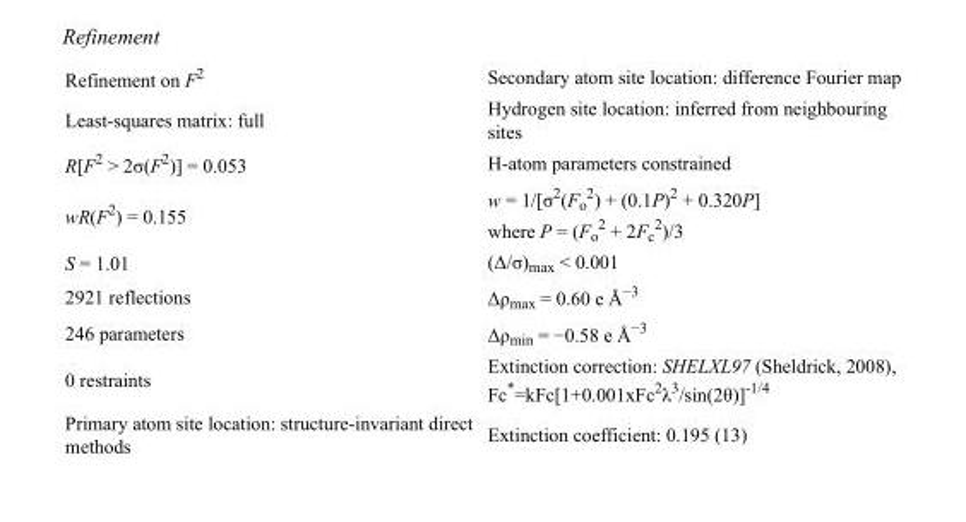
<table><tbody><tr><td>Refinement on F<sup>2</sup></td><td>Secondary atom site location: difference Fourier map</td></tr><tr><td>Least-squares matrix: full</td><td>Hydrogen site location: inferred from neighbouring sites</td></tr><tr><td>R[F<sup>2</sup> &gt; 2σ(F<sup>2</sup>)] = 0.053</td><td>H-atom parameters constrained</td></tr><tr><td>wR(F<sup>2</sup>) = 0.155</td><td>w = 1/[σ<sup>2</sup>(F<sub>o</sub> <sup>2</sup>) + (0.1P)<sup>2</sup> + 0.320P] where P = (F<sub>o</sub> <sup>2</sup> + 2F<sub>c</sub> <sup>2</sup>)/3</td></tr><tr><td>S = 1.01</td><td>(Δ/σ)<sub>max</sub> &lt; 0.001</td></tr><tr><td>2921 reflections</td><td>Δρ<sub>max</sub> = 0.60 e Å<sup>−3</sup></td></tr><tr><td>246 parameters</td><td>Δρ<sub>min</sub> = −0.58 e Å<sup>−3</sup></td></tr><tr><td>0 restraints</td><td>Extinction correction: SHELXL97 (Sheldrick, 2008), Fc*=kFc[1+0.001xFc<sup>2</sup>λ<sup>3</sup>/sin(2θ)]<sup>-1/4</sup></td></tr><tr><td>Primary atom site location: structure-invariant direct methods</td><td>Extinction coefficient: 0.195 (13)</td></tr></tbody></table>